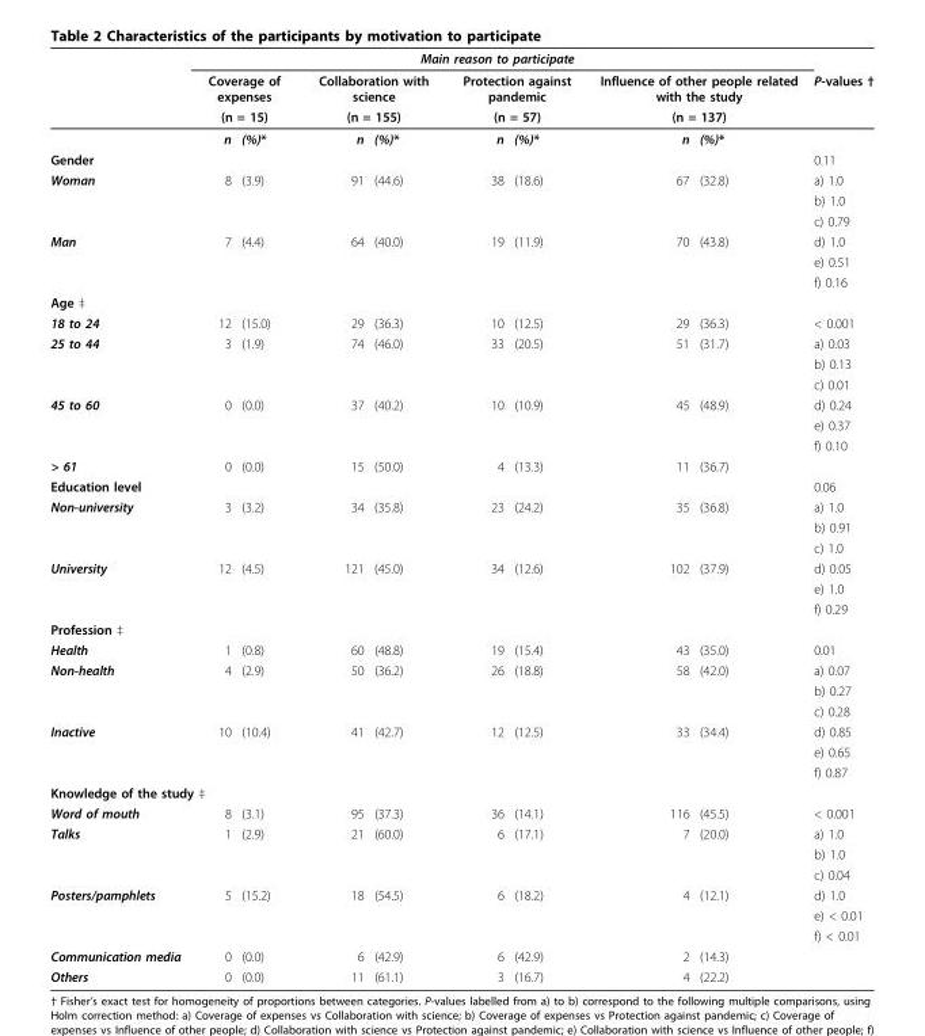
<table><thead><tr><td rowspan="4"></td><td colspan="8">Main reason to participate</td><td rowspan="4">P-values †</td></tr><tr><td rowspan="2" colspan="2">Coverage of expenses (n = 15)</td><td rowspan="2" colspan="2">Collaboration with science (n = 155)</td><td rowspan="2" colspan="2">Protection against pandemic (n = 57)</td><td rowspan="2" colspan="2">Influence of other people related with the study (n = 137)</td></tr><tr></tr><tr><td>n</td><td>(%)*</td><td>n</td><td>(%)*</td><td>n</td><td>(%)*</td><td>n</td><td>(%)*</td></tr></thead><tbody><tr><td>Gender</td><td></td><td></td><td></td><td></td><td></td><td></td><td></td><td></td><td>0.11</td></tr><tr><td rowspan="3">Woman</td><td>8</td><td>(3.9)</td><td>91</td><td>(44.6)</td><td>38</td><td>(18.6)</td><td>67</td><td>(32.8)</td><td>a) 1.0</td></tr><tr><td></td><td></td><td></td><td></td><td></td><td></td><td></td><td></td><td>b) 1.0</td></tr><tr><td></td><td></td><td></td><td></td><td></td><td></td><td></td><td></td><td>c) 0.79</td></tr><tr><td rowspan="3">Man</td><td>7</td><td>(4.4)</td><td>64</td><td>(40.0)</td><td>19</td><td>(11.9)</td><td>70</td><td>(43.8)</td><td>d) 1.0</td></tr><tr><td></td><td></td><td></td><td></td><td></td><td></td><td></td><td></td><td>e) 0.51</td></tr><tr><td></td><td></td><td></td><td></td><td></td><td></td><td></td><td></td><td>f) 0.16</td></tr><tr><td colspan="10">Age ‡</td></tr><tr><td>18 to 24</td><td>12</td><td>(15.0)</td><td>29</td><td>(36.3)</td><td>10</td><td>(12.5)</td><td>29</td><td>(36.3)</td><td>&lt; 0.001</td></tr><tr><td rowspan="3">25 to 44</td><td>3</td><td>(1.9)</td><td>74</td><td>(46.0)</td><td>33</td><td>(20.5)</td><td>51</td><td>(31.7)</td><td>a) 0.03</td></tr><tr><td></td><td></td><td></td><td></td><td></td><td></td><td></td><td></td><td>b) 0.13</td></tr><tr><td></td><td></td><td></td><td></td><td></td><td></td><td></td><td></td><td>c) 0.01</td></tr><tr><td rowspan="3">45 to 60</td><td>0</td><td>(0.0)</td><td>37</td><td>(40.2)</td><td>10</td><td>(10.9)</td><td>45</td><td>(48.9)</td><td>d) 0.24</td></tr><tr><td></td><td></td><td></td><td></td><td></td><td></td><td></td><td></td><td>e) 0.37</td></tr><tr><td></td><td></td><td></td><td></td><td></td><td></td><td></td><td></td><td>f) 0.10</td></tr><tr><td>&gt; 61</td><td>0</td><td>(0.0)</td><td>15</td><td>(50.0)</td><td>4</td><td>(13.3)</td><td>11</td><td>(36.7)</td><td></td></tr><tr><td colspan="2">Education level</td><td></td><td></td><td></td><td></td><td></td><td></td><td></td><td>0.06</td></tr><tr><td rowspan="3">Non-university</td><td>3</td><td>(3.2)</td><td>34</td><td>(35.8)</td><td>23</td><td>(24.2)</td><td>35</td><td>(36.8)</td><td>a) 1.0</td></tr><tr><td></td><td></td><td></td><td></td><td></td><td></td><td></td><td></td><td>b) 0.91</td></tr><tr><td></td><td></td><td></td><td></td><td></td><td></td><td></td><td></td><td>c) 1.0</td></tr><tr><td rowspan="3">University</td><td>12</td><td>(4.5)</td><td>121</td><td>(45.0)</td><td>34</td><td>(12.6)</td><td>102</td><td>(37.9)</td><td>d) 0.05</td></tr><tr><td></td><td></td><td></td><td></td><td></td><td></td><td></td><td></td><td>e) 1.0</td></tr><tr><td></td><td></td><td></td><td></td><td></td><td></td><td></td><td></td><td>f) 0.29</td></tr><tr><td colspan="10">Profession ‡</td></tr><tr><td>Health</td><td>1</td><td>(0.8)</td><td>60</td><td>(48.8)</td><td>19</td><td>(15.4)</td><td>43</td><td>(35.0)</td><td>0.01</td></tr><tr><td rowspan="3">Non-health</td><td>4</td><td>(2.9)</td><td>50</td><td>(36.2)</td><td>26</td><td>(18.8)</td><td>58</td><td>(42.0)</td><td>a) 0.07</td></tr><tr><td></td><td></td><td></td><td></td><td></td><td></td><td></td><td></td><td>b) 0.27</td></tr><tr><td></td><td></td><td></td><td></td><td></td><td></td><td></td><td></td><td>c) 0.28</td></tr><tr><td rowspan="3">Inactive</td><td>10</td><td>(10.4)</td><td>41</td><td>(42.7)</td><td>12</td><td>(12.5)</td><td>33</td><td>(34.4)</td><td>d) 0.85</td></tr><tr><td></td><td></td><td></td><td></td><td></td><td></td><td></td><td></td><td>e) 0.65</td></tr><tr><td></td><td></td><td></td><td></td><td></td><td></td><td></td><td></td><td>f) 0.87</td></tr><tr><td colspan="10">Knowledge of the study ‡</td></tr><tr><td>Word of mouth</td><td>8</td><td>(3.1)</td><td>95</td><td>(37.3)</td><td>36</td><td>(14.1)</td><td>116</td><td>(45.5)</td><td>&lt; 0.001</td></tr><tr><td rowspan="3">Talks</td><td>1</td><td>(2.9)</td><td>21</td><td>(60.0)</td><td>6</td><td>(17.1)</td><td>7</td><td>(20.0)</td><td>a) 1.0</td></tr><tr><td></td><td></td><td></td><td></td><td></td><td></td><td></td><td></td><td>b) 1.0</td></tr><tr><td></td><td></td><td></td><td></td><td></td><td></td><td></td><td></td><td>c) 0.04</td></tr><tr><td rowspan="3">Posters/pamphlets</td><td>5</td><td>(15.2)</td><td>18</td><td>(54.5)</td><td>6</td><td>(18.2)</td><td>4</td><td>(12.1)</td><td>d) 1.0</td></tr><tr><td></td><td></td><td></td><td></td><td></td><td></td><td></td><td></td><td>e) &lt; 0.01</td></tr><tr><td></td><td></td><td></td><td></td><td></td><td></td><td></td><td></td><td>f) &lt; 0.01</td></tr><tr><td>Communication media</td><td>0</td><td>(0.0)</td><td>6</td><td>(42.9)</td><td>6</td><td>(42.9)</td><td>2</td><td>(14.3)</td><td></td></tr><tr><td>Others</td><td>0</td><td>(0.0)</td><td>11</td><td>(61.1)</td><td>3</td><td>(16.7)</td><td>4</td><td>(22.2)</td><td></td></tr></tbody></table>